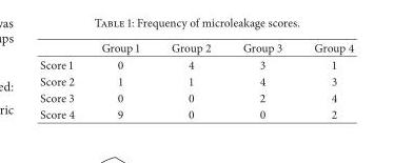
<table><thead><tr><td></td><td>Group 1</td><td>Group 2</td><td>Group 3</td><td>Group 4</td></tr></thead><tbody><tr><td>Score 1</td><td>0</td><td>4</td><td>3</td><td>1</td></tr><tr><td>Score 2</td><td>1</td><td>1</td><td>4</td><td>3</td></tr><tr><td>Score 3</td><td>0</td><td>0</td><td>2</td><td>4</td></tr><tr><td>Score 4</td><td>9</td><td>0</td><td>0</td><td>2</td></tr></tbody></table>